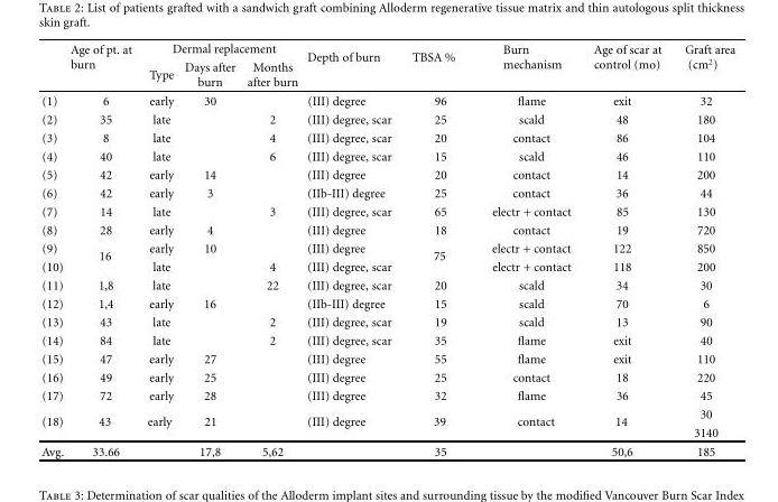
<table><thead><tr><td rowspan="2"></td><td rowspan="2">Age of pt. at burn</td><td colspan="3">Dermal replacement</td><td rowspan="2">Depth of burn</td><td rowspan="2">TBSA %</td><td rowspan="2">Burn mechanism</td><td rowspan="2">Age of scar at control (mo)</td><td rowspan="2">Graft area (cm<sup>2</sup>)</td></tr><tr><td>Type</td><td>Days after burn</td><td>Months after burn</td></tr></thead><tbody><tr><td>(1)</td><td>6</td><td>early</td><td>30</td><td></td><td>(III) degree</td><td>96</td><td>flame</td><td>exit</td><td>32</td></tr><tr><td>(2)</td><td>35</td><td>late</td><td></td><td>2</td><td>(III) degree, scar</td><td>25</td><td>scald</td><td>48</td><td>180</td></tr><tr><td>(3)</td><td>8</td><td>late</td><td></td><td>4</td><td>(III) degree, scar</td><td>20</td><td>contact</td><td>86</td><td>104</td></tr><tr><td>(4)</td><td>40</td><td>late</td><td></td><td>6</td><td>(III) degree, scar</td><td>15</td><td>scald</td><td>46</td><td>110</td></tr><tr><td>(5)</td><td>42</td><td>early</td><td>14</td><td></td><td>(III) degree</td><td>20</td><td>contact</td><td>14</td><td>200</td></tr><tr><td>(6)</td><td>42</td><td>early</td><td>3</td><td></td><td>(IIb-III) degree</td><td>25</td><td>contact</td><td>36</td><td>44</td></tr><tr><td>(7)</td><td>14</td><td>late</td><td></td><td>3</td><td>(III) degree, scar</td><td>65</td><td>electr + contact</td><td>85</td><td>130</td></tr><tr><td>(8)</td><td>28</td><td>early</td><td>4</td><td></td><td>(III) degree</td><td>18</td><td>contact</td><td>19</td><td>720</td></tr><tr><td>(9)</td><td rowspan="2">16</td><td>early</td><td>10</td><td></td><td>(III) degree</td><td rowspan="2">75</td><td>electr + contact</td><td>122</td><td>850</td></tr><tr><td>(10)</td><td>late</td><td></td><td>4</td><td>(III) degree, scar</td><td>electr + contact</td><td>118</td><td>200</td></tr><tr><td>(11)</td><td>1,8</td><td>late</td><td></td><td>22</td><td>(III) degree, scar</td><td>20</td><td>scald</td><td>34</td><td>30</td></tr><tr><td>(12)</td><td>1,4</td><td>early</td><td>16</td><td></td><td>(IIb-III) degree</td><td>15</td><td>scald</td><td>70</td><td>6</td></tr><tr><td>(13)</td><td>43</td><td>late</td><td></td><td>2</td><td>(III) degree, scar</td><td>19</td><td>scald</td><td>13</td><td>90</td></tr><tr><td>(14)</td><td>84</td><td>late</td><td></td><td>2</td><td>(III) degree, scar</td><td>35</td><td>flame</td><td>exit</td><td>40</td></tr><tr><td>(15)</td><td>47</td><td>early</td><td>27</td><td></td><td>(III) degree</td><td>55</td><td>flame</td><td>exit</td><td>110</td></tr><tr><td>(16)</td><td>49</td><td>early</td><td>25</td><td></td><td>(III) degree</td><td>25</td><td>contact</td><td>18</td><td>220</td></tr><tr><td>(17)</td><td>72</td><td>early</td><td>28</td><td></td><td>(III) degree</td><td>32</td><td>flame</td><td>36</td><td>45</td></tr><tr><td rowspan="2">(18)</td><td rowspan="2">43</td><td rowspan="2">early</td><td rowspan="2">21</td><td></td><td rowspan="2">(III) degree</td><td rowspan="2">39</td><td rowspan="2">contact</td><td rowspan="2">14</td><td>30</td></tr><tr><td></td><td>3140</td></tr><tr><td>Avg.</td><td>33.66</td><td></td><td>17,8</td><td>5,62</td><td></td><td>35</td><td></td><td>50,6</td><td>185</td></tr></tbody></table>